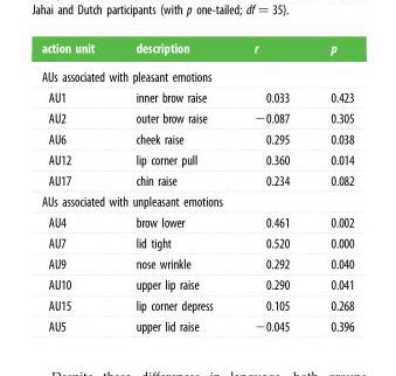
<table><thead><tr><td>action unit</td><td>description</td><td>r</td><td>p</td></tr></thead><tbody><tr><td colspan="4">AUs associated with pleasant emotions</td></tr><tr><td>AU1</td><td>inner brow raise</td><td>0.033</td><td>0.423</td></tr><tr><td>AU2</td><td>outer brow raise</td><td>−0.087</td><td>0.305</td></tr><tr><td>AU6</td><td>cheek raise</td><td>0.295</td><td>0.038</td></tr><tr><td>AU12</td><td>lip corner pull</td><td>0.360</td><td>0.014</td></tr><tr><td>AU17</td><td>chin raise</td><td>0.234</td><td>0.082</td></tr><tr><td colspan="4">AUs associated with unpleasant emotions</td></tr><tr><td>AU4</td><td>brow lower</td><td>0.461</td><td>0.002</td></tr><tr><td>AU7</td><td>lid tight</td><td>0.520</td><td>0.000</td></tr><tr><td>AU9</td><td>nose wrinkle</td><td>0.292</td><td>0.040</td></tr><tr><td>AU10</td><td>upper lip raise</td><td>0.290</td><td>0.041</td></tr><tr><td>AU15</td><td>lip corner depress</td><td>0.105</td><td>0.268</td></tr><tr><td>AU5</td><td>upper lid raise</td><td>−0.045</td><td>0.396</td></tr></tbody></table>